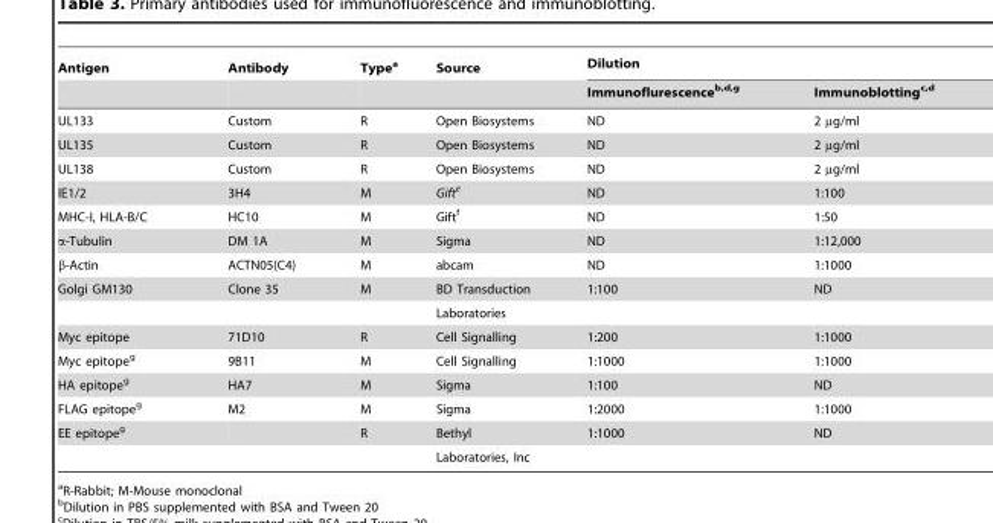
<table><thead><tr><td rowspan="2">Antigen</td><td rowspan="2">Antibody</td><td rowspan="2">Type<sup>a</sup></td><td rowspan="2">Source</td><td colspan="2">Dilution</td></tr><tr><td>Immunoflurescenceb,d,g</td><td>Immunoblottingc,d</td></tr></thead><tbody><tr><td>UL133</td><td>Custom</td><td>R</td><td>Open Biosystems</td><td>ND</td><td>2 µg/ml</td></tr><tr><td>UL135</td><td>Custom</td><td>R</td><td>Open Biosystems</td><td>ND</td><td>2 µg/ml</td></tr><tr><td>UL138</td><td>Custom</td><td>R</td><td>Open Biosystems</td><td>ND</td><td>2 µg/ml</td></tr><tr><td>IE1/2</td><td>3H4</td><td>M</td><td>Gifte</td><td>ND</td><td>1:100</td></tr><tr><td>MHC-I, HLA-B/C</td><td>HC10</td><td>M</td><td>Gift<sup>f</sup></td><td>ND</td><td>1:50</td></tr><tr><td>α-Tubulin</td><td>DM 1A</td><td>M</td><td>Sigma</td><td>ND</td><td>1:12,000</td></tr><tr><td>β-Actin</td><td>ACTN05(C4)</td><td>M</td><td>abcam</td><td>ND</td><td>1:1000</td></tr><tr><td rowspan="2">Golgi GM130</td><td>Clone 35</td><td>M</td><td>BD Transduction</td><td>1:100</td><td>ND</td></tr><tr><td></td><td></td><td>Laboratories</td><td></td><td></td></tr><tr><td>Myc epitope</td><td>71D10</td><td>R</td><td>Cell Signalling</td><td>1:200</td><td>1:1000</td></tr><tr><td>Myc epitope<sup>g</sup></td><td>9B11</td><td>M</td><td>Cell Signalling</td><td>1:1000</td><td>1:1000</td></tr><tr><td>HA epitope<sup>g</sup></td><td>HA7</td><td>M</td><td>Sigma</td><td>1:100</td><td>ND</td></tr><tr><td>FLAG epitope<sup>g</sup></td><td>M2</td><td>M</td><td>Sigma</td><td>1:2000</td><td>1:1000</td></tr><tr><td rowspan="2">EE epitope<sup>g</sup></td><td></td><td>R</td><td>Bethyl</td><td>1:1000</td><td>ND</td></tr><tr><td></td><td></td><td>Laboratories, Inc</td><td></td><td></td></tr></tbody></table>